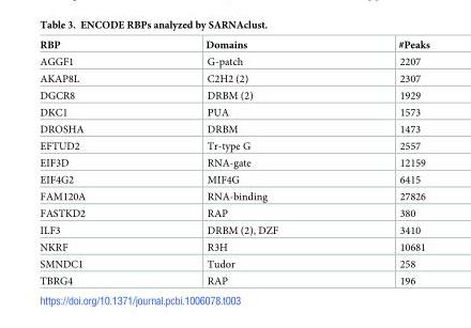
<table><thead><tr><td>RBP</td><td>Domains</td><td>#Peaks</td></tr></thead><tbody><tr><td>AGGF1</td><td>G-patch</td><td>2207</td></tr><tr><td>AKAP8L</td><td>C2H2 (2)</td><td>2307</td></tr><tr><td>DGCR8</td><td>DRBM (2)</td><td>1929</td></tr><tr><td>DKC1</td><td>PUA</td><td>1573</td></tr><tr><td>DROSHA</td><td>DRBM</td><td>1473</td></tr><tr><td>EFTUD2</td><td>Tr-type G</td><td>2557</td></tr><tr><td>EIF3D</td><td>RNA-gate</td><td>12159</td></tr><tr><td>EIF4G2</td><td>MIF4G</td><td>6415</td></tr><tr><td>FAM120A</td><td>RNA-binding</td><td>27826</td></tr><tr><td>FASTKD2</td><td>RAP</td><td>380</td></tr><tr><td>ILF3</td><td>DRBM (2), DZF</td><td>3410</td></tr><tr><td>NKRF</td><td>R3H</td><td>10681</td></tr><tr><td>SMNDC1</td><td>Tudor</td><td>258</td></tr><tr><td>TBRG4</td><td>RAP</td><td>196</td></tr></tbody></table>